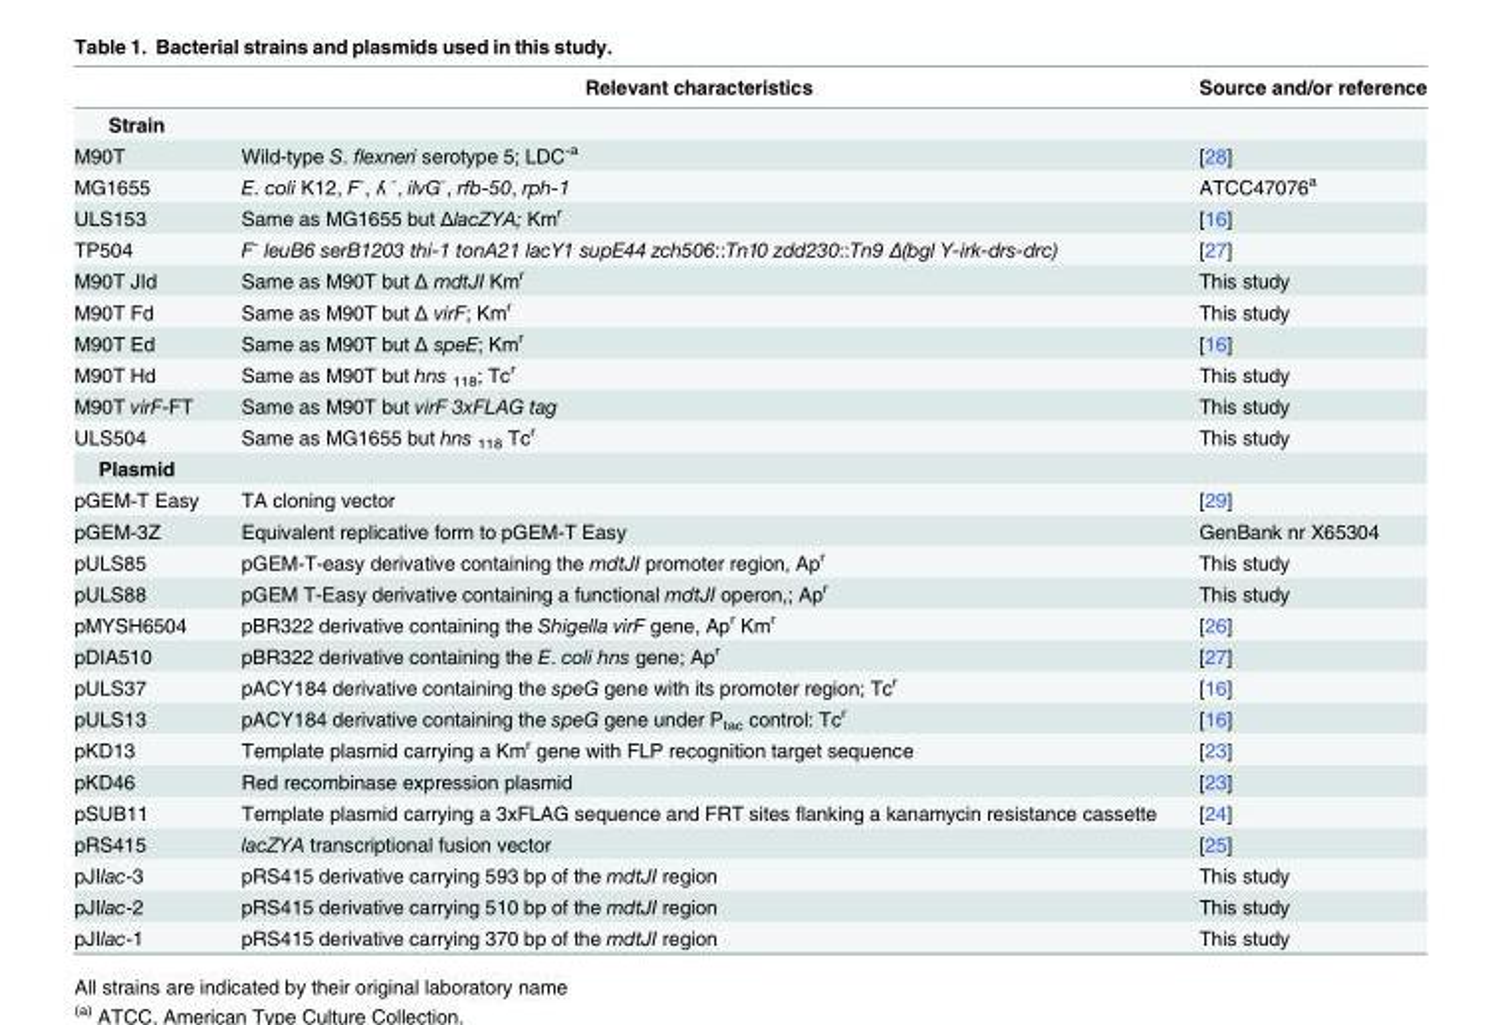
<table><thead><tr><td></td><td>Relevant characteristics</td><td>Source and/or reference</td></tr></thead><tbody><tr><td colspan="3">Strain</td></tr><tr><td>M90T</td><td>Wild-type S. flexneri serotype 5; LDC<sup>-a</sup></td><td>[28]</td></tr><tr><td>MG1655</td><td>E. coli K12, F<sup>-</sup>, ʎ <sup>-</sup>, ilvG<sup>-</sup>, rfb-50, rph-1</td><td>ATCC47076<sup>a</sup></td></tr><tr><td>ULS153</td><td>Same as MG1655 but ΔlacZYA; Km<sup>r</sup></td><td>[16]</td></tr><tr><td>TP504</td><td>F<sup>-</sup> leuB6 serB1203 thi-1 tonA21 lacY1 supE44 zch506::Tn10 zdd230::Tn9 Δ(bgl Y-irk-drs-drc)</td><td>[27]</td></tr><tr><td>M90T JId</td><td>Same as M90T but Δ mdtJI Km<sup>r</sup></td><td>This study</td></tr><tr><td>M90T Fd</td><td>Same as M90T but Δ virF; Km<sup>r</sup></td><td>This study</td></tr><tr><td>M90T Ed</td><td>Same as M90T but Δ speE; Km<sup>r</sup></td><td>[16]</td></tr><tr><td>M90T Hd</td><td>Same as M90T but hns <sub>118</sub>; Tc<sup>r</sup></td><td>This study</td></tr><tr><td>M90T virF-FT</td><td>Same as M90T but virF 3xFLAG tag</td><td>This study</td></tr><tr><td>ULS504</td><td>Same as MG1655 but hns <sub>118</sub> Tc<sup>r</sup></td><td>This study</td></tr><tr><td colspan="3">Plasmid</td></tr><tr><td>pGEM-T Easy</td><td>TA cloning vector</td><td>[29]</td></tr><tr><td>pGEM-3Z</td><td>Equivalent replicative form to pGEM-T Easy</td><td>GenBank nr X65304</td></tr><tr><td>pULS85</td><td>pGEM-T-easy derivative containing the mdtJI promoter region, Ap<sup>r</sup></td><td>This study</td></tr><tr><td>pULS88</td><td>pGEM T-Easy derivative containing a functional mdtJI operon,; Ap<sup>r</sup></td><td>This study</td></tr><tr><td>pMYSH6504</td><td>pBR322 derivative containing the Shigella virF gene, Ap<sup>r</sup> Km<sup>r</sup></td><td>[26]</td></tr><tr><td>pDIA510</td><td>pBR322 derivative containing the E. coli hns gene; Ap<sup>r</sup></td><td>[27]</td></tr><tr><td>pULS37</td><td>pACY184 derivative containing the speG gene with its promoter region; Tc<sup>r</sup></td><td>[16]</td></tr><tr><td>pULS13</td><td>pACY184 derivative containing the speG gene under P<sub>tac</sub> control: Tc<sup>r</sup></td><td>[16]</td></tr><tr><td>pKD13</td><td>Template plasmid carrying a Km<sup>r</sup> gene with FLP recognition target sequence</td><td>[23]</td></tr><tr><td>pKD46</td><td>Red recombinase expression plasmid</td><td>[23]</td></tr><tr><td>pSUB11</td><td>Template plasmid carrying a 3xFLAG sequence and FRT sites flanking a kanamycin resistance cassette</td><td>[24]</td></tr><tr><td>pRS415</td><td>lacZYA transcriptional fusion vector</td><td>[25]</td></tr><tr><td>pJIlac-3</td><td>pRS415 derivative carrying 593 bp of the mdtJI region</td><td>This study</td></tr><tr><td>pJIlac-2</td><td>pRS415 derivative carrying 510 bp of the mdtJI region</td><td>This study</td></tr><tr><td>pJIlac-1</td><td>pRS415 derivative carrying 370 bp of the mdtJI region</td><td>This study</td></tr></tbody></table>